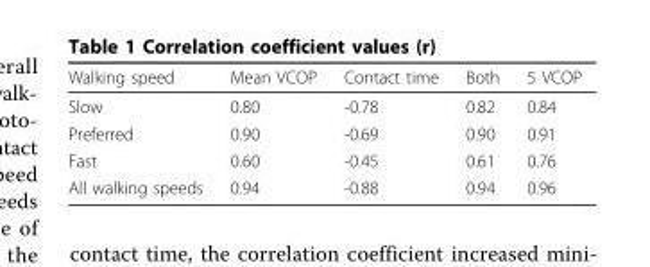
<table><thead><tr><td>Walking speed</td><td>Mean VCOP</td><td>Contact time</td><td>Both</td><td>5 VCOP</td></tr></thead><tbody><tr><td>Slow</td><td>0.80</td><td>-0.78</td><td>0.82</td><td>0.84</td></tr><tr><td>Preferred</td><td>0.90</td><td>-0.69</td><td>0.90</td><td>0.91</td></tr><tr><td>Fast</td><td>0.60</td><td>-0.45</td><td>0.61</td><td>0.76</td></tr><tr><td>All walking speeds</td><td>0.94</td><td>-0.88</td><td>0.94</td><td>0.96</td></tr></tbody></table>